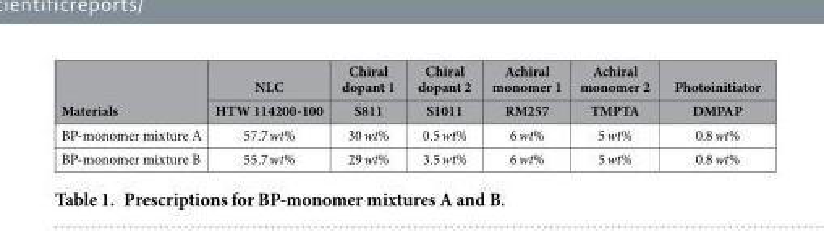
<table><thead><tr><td rowspan="2">Materials</td><td rowspan="2">NLC HTW 114200-100</td><td rowspan="2">Chiral dopant 1 S811</td><td rowspan="2">Chiral dopant 2 S1011</td><td rowspan="2">Achiral monomer 1 RM257</td><td rowspan="2">Achiral monomer 2 TMPTA</td><td rowspan="2">Photoinitiator DMPAP</td></tr><tr></tr></thead><tbody><tr><td>BP-monomer mixture A</td><td>57.7 wt%</td><td>30 wt%</td><td>0.5 wt%</td><td>6 wt%</td><td>5 wt%</td><td>0.8 wt%</td></tr><tr><td>BP-monomer mixture B</td><td>55.7 wt%</td><td>29 wt%</td><td>3.5 wt%</td><td>6 wt%</td><td>5 wt%</td><td>0.8 wt%</td></tr></tbody></table>